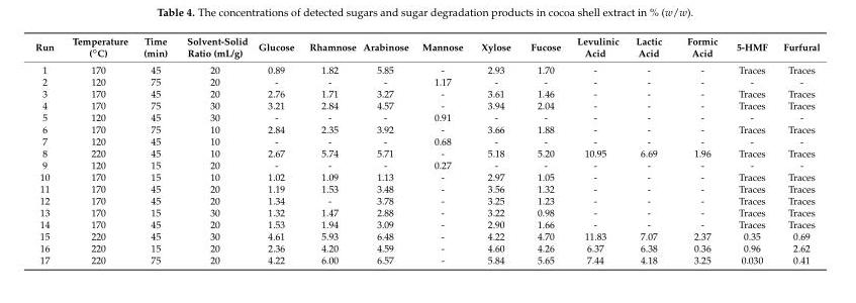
<table><thead><tr><td>Run</td><td>Temperature (◦C)</td><td>Time (min)</td><td>Solvent-Solid Ratio (mL/g)</td><td>Glucose</td><td>Rhamnose</td><td>Arabinose</td><td>Mannose</td><td>Xylose</td><td>Fucose</td><td>Levulinic Acid</td><td>Lactic Acid</td><td>Formic Acid</td><td>5-HMF</td><td>Furfural</td></tr></thead><tbody><tr><td>1</td><td>170</td><td>45</td><td>20</td><td>0.89</td><td>1.82</td><td>5.85</td><td>-</td><td>2.93</td><td>1.70</td><td>-</td><td>-</td><td>-</td><td>Traces</td><td>Traces</td></tr><tr><td>2</td><td>120</td><td>75</td><td>20</td><td>-</td><td>-</td><td>-</td><td>1.17</td><td>-</td><td>-</td><td>-</td><td>-</td><td>-</td><td>-</td><td>-</td></tr><tr><td>3</td><td>170</td><td>45</td><td>20</td><td>2.76</td><td>1.71</td><td>3.27</td><td>-</td><td>3.61</td><td>1.46</td><td>-</td><td>-</td><td>-</td><td>Traces</td><td>Traces</td></tr><tr><td>4</td><td>170</td><td>75</td><td>30</td><td>3.21</td><td>2.84</td><td>4.57</td><td>-</td><td>3.94</td><td>2.04</td><td>-</td><td>-</td><td>-</td><td>Traces</td><td>Traces</td></tr><tr><td>5</td><td>120</td><td>45</td><td>30</td><td>-</td><td>-</td><td>-</td><td>0.91</td><td>-</td><td>-</td><td>-</td><td>-</td><td>-</td><td>-</td><td>-</td></tr><tr><td>6</td><td>170</td><td>75</td><td>10</td><td>2.84</td><td>2.35</td><td>3.92</td><td>-</td><td>3.66</td><td>1.88</td><td>-</td><td>-</td><td>-</td><td>Traces</td><td>Traces</td></tr><tr><td>7</td><td>120</td><td>45</td><td>10</td><td>-</td><td>-</td><td>-</td><td>0.68</td><td>-</td><td>-</td><td>-</td><td>-</td><td>-</td><td>-</td><td>-</td></tr><tr><td>8</td><td>220</td><td>45</td><td>10</td><td>2.67</td><td>5.74</td><td>5.71</td><td>-</td><td>5.18</td><td>5.20</td><td>10.95</td><td>6.69</td><td>1.96</td><td>Traces</td><td>Traces</td></tr><tr><td>9</td><td>120</td><td>15</td><td>20</td><td>-</td><td>-</td><td>-</td><td>0.27</td><td>-</td><td>-</td><td>-</td><td>-</td><td>-</td><td>-</td><td>-</td></tr><tr><td>10</td><td>170</td><td>15</td><td>10</td><td>1.02</td><td>1.09</td><td>1.13</td><td>-</td><td>2.97</td><td>1.05</td><td>-</td><td>-</td><td>-</td><td>Traces</td><td>Traces</td></tr><tr><td>11</td><td>170</td><td>45</td><td>20</td><td>1.19</td><td>1.53</td><td>3.48</td><td>-</td><td>3.56</td><td>1.32</td><td>-</td><td>-</td><td>-</td><td>Traces</td><td>Traces</td></tr><tr><td>12</td><td>170</td><td>45</td><td>20</td><td>1.34</td><td>-</td><td>3.78</td><td>-</td><td>3.25</td><td>1.23</td><td>-</td><td>-</td><td>-</td><td>Traces</td><td>Traces</td></tr><tr><td>13</td><td>170</td><td>15</td><td>30</td><td>1.32</td><td>1.47</td><td>2.88</td><td>-</td><td>3.22</td><td>0.98</td><td>-</td><td>-</td><td>-</td><td>Traces</td><td>Traces</td></tr><tr><td>14</td><td>170</td><td>45</td><td>20</td><td>1.53</td><td>1.94</td><td>3.09</td><td>-</td><td>2.90</td><td>1.66</td><td>-</td><td>-</td><td>-</td><td>Traces</td><td>Traces</td></tr><tr><td>15</td><td>220</td><td>45</td><td>30</td><td>4.61</td><td>5.93</td><td>6.48</td><td>-</td><td>4.22</td><td>4.70</td><td>11.83</td><td>7.07</td><td>2.37</td><td>0.35</td><td>0.69</td></tr><tr><td>16</td><td>220</td><td>15</td><td>20</td><td>2.36</td><td>4.20</td><td>4.59</td><td>-</td><td>4.60</td><td>4.26</td><td>6.37</td><td>6.38</td><td>0.36</td><td>0.96</td><td>2.62</td></tr><tr><td>17</td><td>220</td><td>75</td><td>20</td><td>4.22</td><td>6.00</td><td>6.57</td><td>-</td><td>5.84</td><td>5.65</td><td>7.44</td><td>4.18</td><td>3.25</td><td>0.030</td><td>0.41</td></tr></tbody></table>